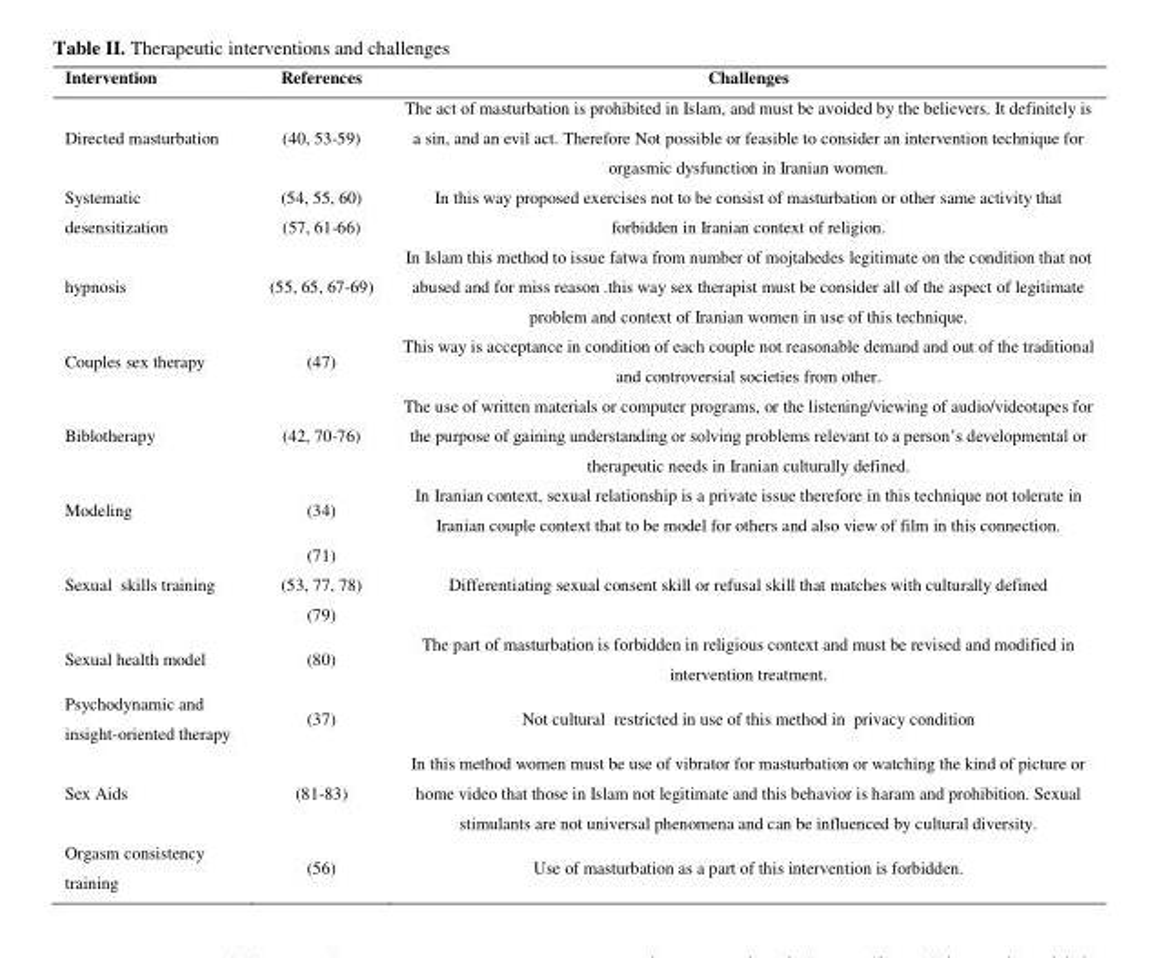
<table><thead><tr><td>Intervention</td><td>References</td><td>Challenges</td></tr></thead><tbody><tr><td>Directed masturbation</td><td>(40, 53-59)</td><td>The act of masturbation is prohibited in Islam, and must be avoided by the believers. It definitely is a sin, and an evil act. Therefore Not possible or feasible to consider an intervention technique for orgasmic dysfunction in Iranian women.</td></tr><tr><td>Systematic desensitization</td><td>(54, 55, 60) (57, 61-66)</td><td>In this way proposed exercises not to be consist of masturbation or other same activity that forbidden in Iranian context of religion.</td></tr><tr><td>hypnosis</td><td>(55, 65, 67-69)</td><td>In Islam this method to issue fatwa from number of mojtahedes legitimate on the condition that not abused and for miss reason .this way sex therapist must be consider all of the aspect of legitimate problem and context of Iranian women in use of this technique.</td></tr><tr><td>Couples sex therapy</td><td>(47)</td><td>This way is acceptance in condition of each couple not reasonable demand and out of the traditional and controversial societies from other.</td></tr><tr><td>Biblotherapy</td><td>(42, 70-76)</td><td>The use of written materials or computer programs, or the listening/viewing of audio/videotapes for the purpose of gaining understanding or solving problems relevant to a person’s developmental or therapeutic needs in Iranian culturally defined.</td></tr><tr><td>Modeling</td><td>(34)</td><td>In Iranian context, sexual relationship is a private issue therefore in this technique not tolerate in Iranian couple context that to be model for others and also view of film in this connection.</td></tr><tr><td>Sexual skills training</td><td>(71) (53, 77, 78) (79)</td><td>Differentiating sexual consent skill or refusal skill that matches with culturally defined</td></tr><tr><td>Sexual health model</td><td>(80)</td><td>The part of masturbation is forbidden in religious context and must be revised and modified in intervention treatment.</td></tr><tr><td>Psychodynamic and insight-oriented therapy</td><td>(37)</td><td>Not cultural restricted in use of this method in privacy condition</td></tr><tr><td>Sex Aids</td><td>(81-83)</td><td>In this method women must be use of vibrator for masturbation or watching the kind of picture or home video that those in Islam not legitimate and this behavior is haram and prohibition. Sexual stimulants are not universal phenomena and can be influenced by cultural diversity.</td></tr><tr><td>Orgasm consistency training</td><td>(56)</td><td>Use of masturbation as a part of this intervention is forbidden.</td></tr></tbody></table>